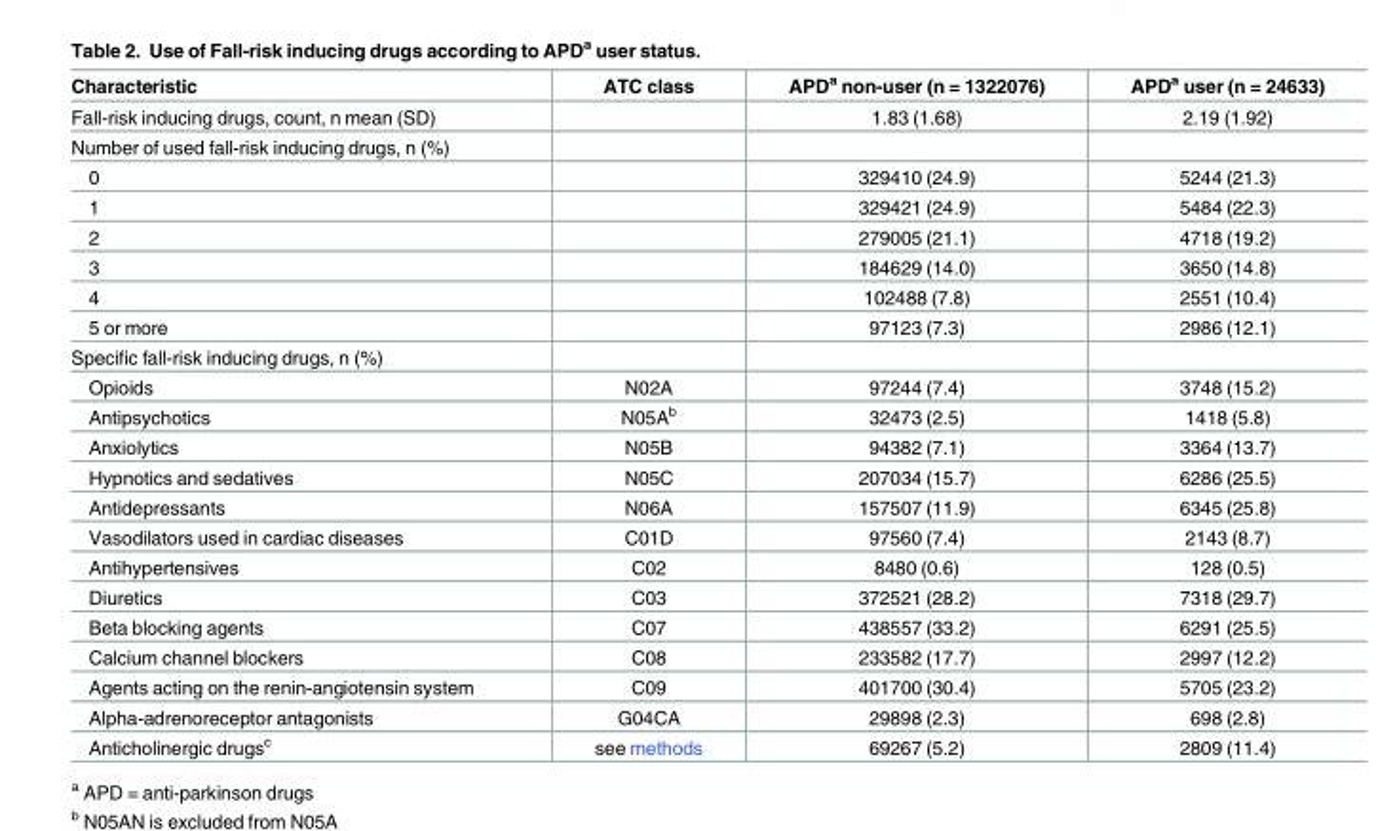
<table><thead><tr><td>Characteristic</td><td>ATC class</td><td>APD<sup>a</sup> non-user (n = 1322076)</td><td>APD<sup>a</sup> user (n = 24633)</td></tr></thead><tbody><tr><td>Fall-risk inducing drugs, count, n mean (SD)</td><td></td><td>1.83 (1.68)</td><td>2.19 (1.92)</td></tr><tr><td colspan="4">Number of used fall-risk inducing drugs, n (%)</td></tr><tr><td>0</td><td></td><td>329410 (24.9)</td><td>5244 (21.3)</td></tr><tr><td>1</td><td></td><td>329421 (24.9)</td><td>5484 (22.3)</td></tr><tr><td>2</td><td></td><td>279005 (21.1)</td><td>4718 (19.2)</td></tr><tr><td>3</td><td></td><td>184629 (14.0)</td><td>3650 (14.8)</td></tr><tr><td>4</td><td></td><td>102488 (7.8)</td><td>2551 (10.4)</td></tr><tr><td>5 or more</td><td></td><td>97123 (7.3)</td><td>2986 (12.1)</td></tr><tr><td colspan="4">Specific fall-risk inducing drugs, n (%)</td></tr><tr><td>Opioids</td><td>N02A</td><td>97244 (7.4)</td><td>3748 (15.2)</td></tr><tr><td>Antipsychotics</td><td>N05A<sup>b</sup></td><td>32473 (2.5)</td><td>1418 (5.8)</td></tr><tr><td>Anxiolytics</td><td>N05B</td><td>94382 (7.1)</td><td>3364 (13.7)</td></tr><tr><td>Hypnotics and sedatives</td><td>N05C</td><td>207034 (15.7)</td><td>6286 (25.5)</td></tr><tr><td>Antidepressants</td><td>N06A</td><td>157507 (11.9)</td><td>6345 (25.8)</td></tr><tr><td>Vasodilators used in cardiac diseases</td><td>C01D</td><td>97560 (7.4)</td><td>2143 (8.7)</td></tr><tr><td>Antihypertensives</td><td>C02</td><td>8480 (0.6)</td><td>128 (0.5)</td></tr><tr><td>Diuretics</td><td>C03</td><td>372521 (28.2)</td><td>7318 (29.7)</td></tr><tr><td>Beta blocking agents</td><td>C07</td><td>438557 (33.2)</td><td>6291 (25.5)</td></tr><tr><td>Calcium channel blockers</td><td>C08</td><td>233582 (17.7)</td><td>2997 (12.2)</td></tr><tr><td>Agents acting on the renin-angiotensin system</td><td>C09</td><td>401700 (30.4)</td><td>5705 (23.2)</td></tr><tr><td>Alpha-adrenoreceptor antagonists</td><td>G04CA</td><td>29898 (2.3)</td><td>698 (2.8)</td></tr><tr><td>Anticholinergic drugs<sup>c</sup></td><td>see methods</td><td>69267 (5.2)</td><td>2809 (11.4)</td></tr></tbody></table>